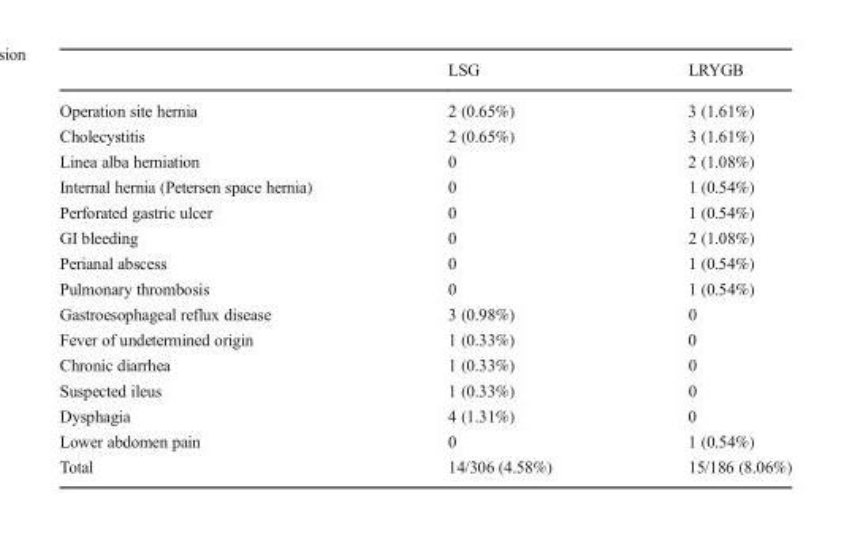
<table><thead><tr><td></td><td>LSG</td><td>LRYGB</td></tr></thead><tbody><tr><td>Operation site hernia</td><td>2 (0.65%)</td><td>3 (1.61%)</td></tr><tr><td>Cholecystitis</td><td>2 (0.65%)</td><td>3 (1.61%)</td></tr><tr><td>Linea alba herniation</td><td>0</td><td>2 (1.08%)</td></tr><tr><td>Internal hernia (Petersen space hernia)</td><td>0</td><td>1 (0.54%)</td></tr><tr><td>Perforated gastric ulcer</td><td>0</td><td>1 (0.54%)</td></tr><tr><td>GI bleeding</td><td>0</td><td>2 (1.08%)</td></tr><tr><td>Perianal abscess</td><td>0</td><td>1 (0.54%)</td></tr><tr><td>Pulmonary thrombosis</td><td>0</td><td>1 (0.54%)</td></tr><tr><td>Gastroesophageal reflux disease</td><td>3 (0.98%)</td><td>0</td></tr><tr><td>Fever of undetermined origin</td><td>1 (0.33%)</td><td>0</td></tr><tr><td>Chronic diarrhea</td><td>1 (0.33%)</td><td>0</td></tr><tr><td>Suspected ileus</td><td>1 (0.33%)</td><td>0</td></tr><tr><td>Dysphagia</td><td>4 (1.31%)</td><td>0</td></tr><tr><td>Lower abdomen pain</td><td>0</td><td>1 (0.54%)</td></tr><tr><td>Total</td><td>14/306 (4.58%)</td><td>15/186 (8.06%)</td></tr></tbody></table>